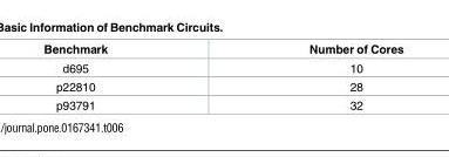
<table><thead><tr><td>Benchmark</td><td>Number of Cores</td></tr></thead><tbody><tr><td>d695</td><td>10</td></tr><tr><td>p22810</td><td>28</td></tr><tr><td>p93791</td><td>32</td></tr></tbody></table>